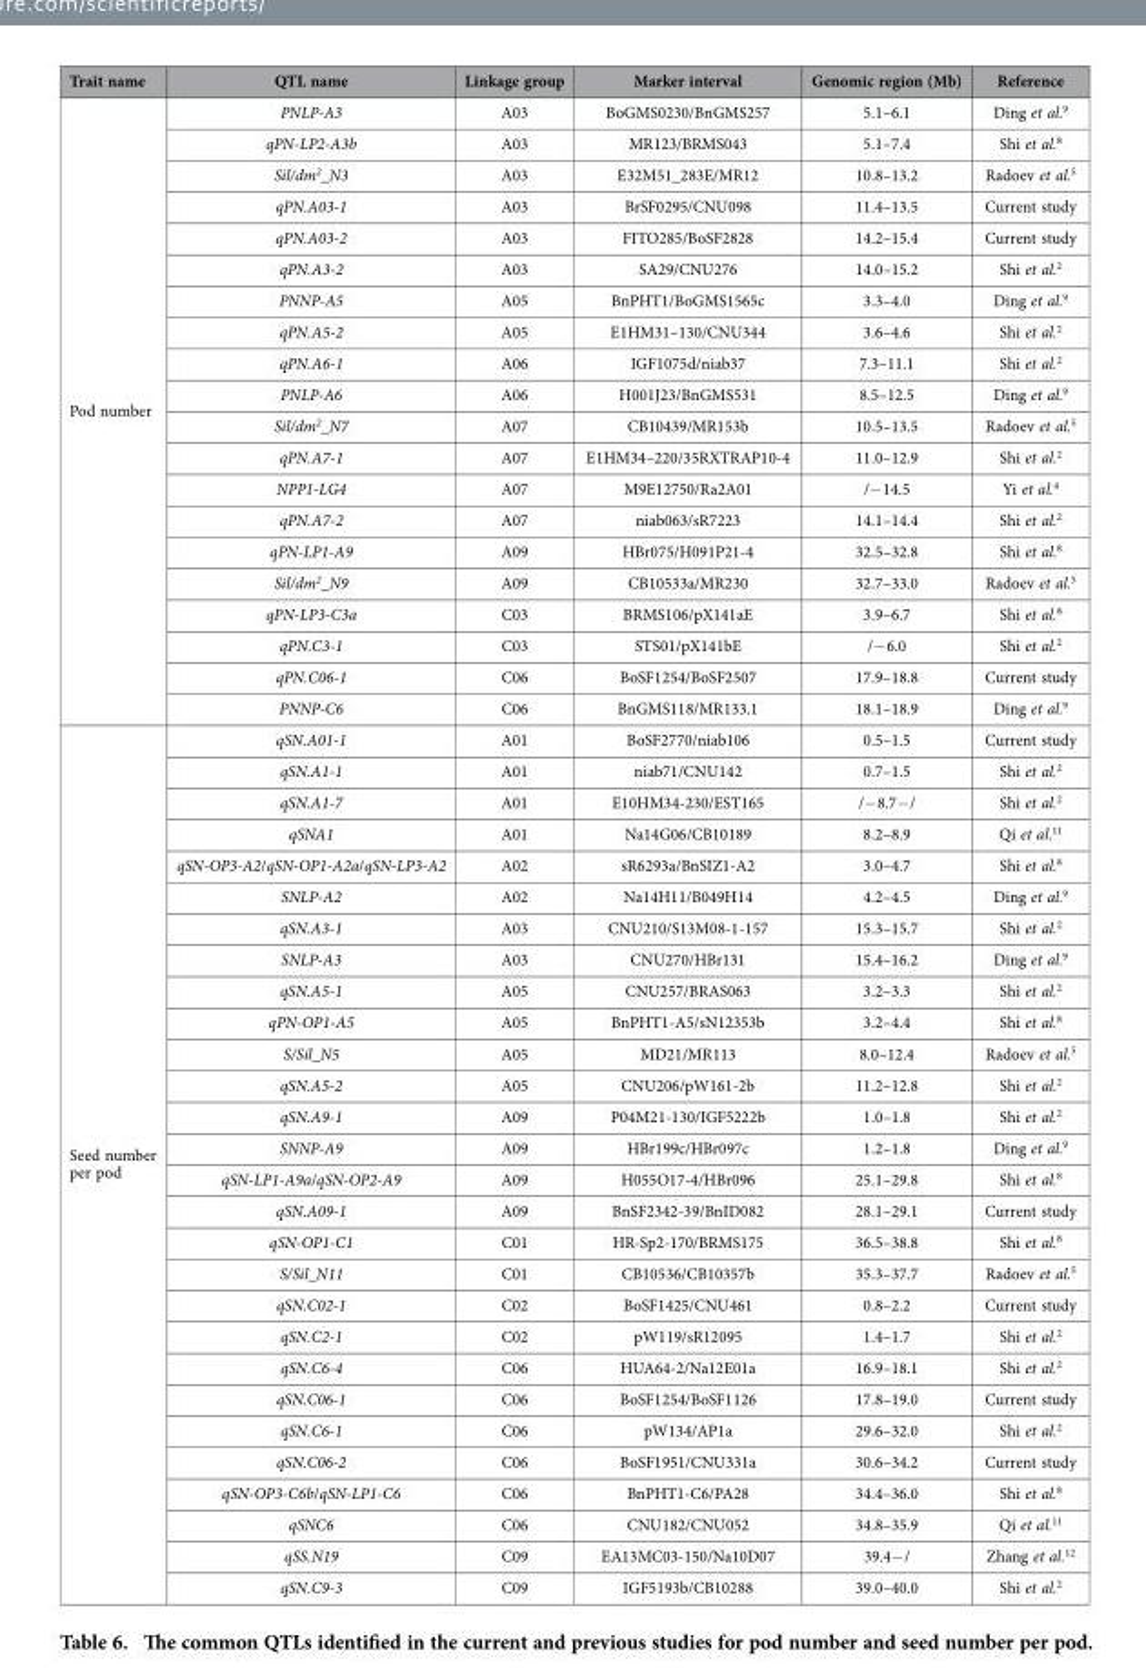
<table><thead><tr><td>Trait name</td><td>QTL name</td><td>Linkage group</td><td>Marker interval</td><td>Genomic region (Mb)</td><td>Reference</td></tr></thead><tbody><tr><td rowspan="20">Pod number</td><td>PNLP-A3</td><td>A03</td><td>BoGMS0230/BnGMS257</td><td>5.1–6.1</td><td>Ding et al.<sup>9</sup></td></tr><tr><td>qPN-LP2-A3b</td><td>A03</td><td>MR123/BRMS043</td><td>5.1–7.4</td><td>Shi et al.<sup>8</sup></td></tr><tr><td>Sil/dm<sup>2</sup>_N3</td><td>A03</td><td>E32M51_283E/MR12</td><td>10.8–13.2</td><td>Radoev et al.<sup>5</sup></td></tr><tr><td>qPN.A03-1</td><td>A03</td><td>BrSF0295/CNU098</td><td>11.4–13.5</td><td>Current study</td></tr><tr><td>qPN.A03-2</td><td>A03</td><td>FITO285/BoSF2828</td><td>14.2–15.4</td><td>Current study</td></tr><tr><td>qPN.A3-2</td><td>A03</td><td>SA29/CNU276</td><td>14.0–15.2</td><td>Shi et al.<sup>2</sup></td></tr><tr><td>PNNP-A5</td><td>A05</td><td>BnPHT1/BoGMS1565c</td><td>3.3–4.0</td><td>Ding et al.<sup>9</sup></td></tr><tr><td>qPN.A5-2</td><td>A05</td><td>E1HM31–130/CNU344</td><td>3.6–4.6</td><td>Shi et al.<sup>2</sup></td></tr><tr><td>qPN.A6-1</td><td>A06</td><td>IGF1075d/niab37</td><td>7.3–11.1</td><td>Shi et al.<sup>2</sup></td></tr><tr><td>PNLP-A6</td><td>A06</td><td>H001J23/BnGMS531</td><td>8.5–12.5</td><td>Ding et al.<sup>9</sup></td></tr><tr><td>Sil/dm<sup>2</sup>_N7</td><td>A07</td><td>CB10439/MR153b</td><td>10.5–13.5</td><td>Radoev et al.<sup>5</sup></td></tr><tr><td>qPN.A7-1</td><td>A07</td><td>E1HM34–220/35RXTRAP10-4</td><td>11.0–12.9</td><td>Shi et al.<sup>2</sup></td></tr><tr><td>NPP1-LG4</td><td>A07</td><td>M9E12750/Ra2A01</td><td>/− 14.5</td><td>Yi et al.<sup>4</sup></td></tr><tr><td>qPN.A7-2</td><td>A07</td><td>niab063/sR7223</td><td>14.1–14.4</td><td>Shi et al.<sup>2</sup></td></tr><tr><td>qPN-LP1-A9</td><td>A09</td><td>HBr075/H091P21-4</td><td>32.5–32.8</td><td>Shi et al.<sup>8</sup></td></tr><tr><td>Sil/dm<sup>2</sup>_N9</td><td>A09</td><td>CB10533a/MR230</td><td>32.7–33.0</td><td>Radoev et al.<sup>5</sup></td></tr><tr><td>qPN-LP3-C3a</td><td>C03</td><td>BRMS106/pX141aE</td><td>3.9–6.7</td><td>Shi et al.<sup>8</sup></td></tr><tr><td>qPN.C3-1</td><td>C03</td><td>STS01/pX141bE</td><td>/− 6.0</td><td>Shi et al.<sup>2</sup></td></tr><tr><td>qPN.C06-1</td><td>C06</td><td>BoSF1254/BoSF2507</td><td>17.9–18.8</td><td>Current study</td></tr><tr><td>PNNP-C6</td><td>C06</td><td>BnGMS118/MR133.1</td><td>18.1–18.9</td><td>Ding et al.<sup>9</sup></td></tr><tr><td rowspan="28">Seed number per pod</td><td>qSN.A01-1</td><td>A01</td><td>BoSF2770/niab106</td><td>0.5–1.5</td><td>Current study</td></tr><tr><td>qSN.A1-1</td><td>A01</td><td>niab71/CNU142</td><td>0.7–1.5</td><td>Shi et al.<sup>2</sup></td></tr><tr><td>qSN.A1-7</td><td>A01</td><td>E10HM34-230/EST165</td><td>/− 8.7− /</td><td>Shi et al.<sup>2</sup></td></tr><tr><td>qSNA1</td><td>A01</td><td>Na14G06/CB10189</td><td>8.2–8.9</td><td>Qi et al.<sup>11</sup></td></tr><tr><td>qSN-OP3-A2/qSN-OP1-A2a/qSN-LP3-A2</td><td>A02</td><td>sR6293a/BnSIZ1-A2</td><td>3.0–4.7</td><td>Shi et al.<sup>8</sup></td></tr><tr><td>SNLP-A2</td><td>A02</td><td>Na14H11/B049H14</td><td>4.2–4.5</td><td>Ding et al.<sup>9</sup></td></tr><tr><td>qSN.A3-1</td><td>A03</td><td>CNU210/S13M08-1-157</td><td>15.3–15.7</td><td>Shi et al.<sup>2</sup></td></tr><tr><td>SNLP-A3</td><td>A03</td><td>CNU270/HBr131</td><td>15.4–16.2</td><td>Ding et al.<sup>9</sup></td></tr><tr><td>qSN.A5-1</td><td>A05</td><td>CNU257/BRAS063</td><td>3.2–3.3</td><td>Shi et al.<sup>2</sup></td></tr><tr><td>qPN-OP1-A5</td><td>A05</td><td>BnPHT1-A5/sN12353b</td><td>3.2–4.4</td><td>Shi et al.<sup>8</sup></td></tr><tr><td>S/Sil_N5</td><td>A05</td><td>MD21/MR113</td><td>8.0–12.4</td><td>Radoev et al.<sup>5</sup></td></tr><tr><td>qSN.A5-2</td><td>A05</td><td>CNU206/pW161-2b</td><td>11.2–12.8</td><td>Shi et al.<sup>2</sup></td></tr><tr><td>qSN.A9-1</td><td>A09</td><td>P04M21-130/IGF5222b</td><td>1.0–1.8</td><td>Shi et al.<sup>2</sup></td></tr><tr><td>SNNP-A9</td><td>A09</td><td>HBr199c/HBr097c</td><td>1.2–1.8</td><td>Ding et al.<sup>9</sup></td></tr><tr><td>qSN-LP1-A9a/qSN-OP2-A9</td><td>A09</td><td>H055O17-4/HBr096</td><td>25.1–29.8</td><td>Shi et al.<sup>8</sup></td></tr><tr><td>qSN.A09-1</td><td>A09</td><td>BnSF2342-39/BnID082</td><td>28.1–29.1</td><td>Current study</td></tr><tr><td>qSN-OP1-C1</td><td>C01</td><td>HR-Sp2-170/BRMS175</td><td>36.5–38.8</td><td>Shi et al.<sup>8</sup></td></tr><tr><td>S/Sil_N11</td><td>C01</td><td>CB10536/CB10357b</td><td>35.3–37.7</td><td>Radoev et al.<sup>5</sup></td></tr><tr><td>qSN.C02-1</td><td>C02</td><td>BoSF1425/CNU461</td><td>0.8–2.2</td><td>Current study</td></tr><tr><td>qSN.C2-1</td><td>C02</td><td>pW119/sR12095</td><td>1.4–1.7</td><td>Shi et al.<sup>2</sup></td></tr><tr><td>qSN.C6-4</td><td>C06</td><td>HUA64-2/Na12E01a</td><td>16.9–18.1</td><td>Shi et al.<sup>2</sup></td></tr><tr><td>qSN.C06-1</td><td>C06</td><td>BoSF1254/BoSF1126</td><td>17.8–19.0</td><td>Current study</td></tr><tr><td>qSN.C6-1</td><td>C06</td><td>pW134/AP1a</td><td>29.6–32.0</td><td>Shi et al.<sup>2</sup></td></tr><tr><td>qSN.C06-2</td><td>C06</td><td>BoSF1951/CNU331a</td><td>30.6–34.2</td><td>Current study</td></tr><tr><td>qSN-OP3-C6b/qSN-LP1-C6</td><td>C06</td><td>BnPHT1-C6/PA28</td><td>34.4–36.0</td><td>Shi et al.<sup>8</sup></td></tr><tr><td>qSNC6</td><td>C06</td><td>CNU182/CNU052</td><td>34.8–35.9</td><td>Qi et al.<sup>11</sup></td></tr><tr><td>qSS.N19</td><td>C09</td><td>EA13MC03-150/Na10D07</td><td>39.4− /</td><td>Zhang et al.<sup>12</sup></td></tr><tr><td>qSN.C9-3</td><td>C09</td><td>IGF5193b/CB10288</td><td>39.0–40.0</td><td>Shi et al.<sup>2</sup></td></tr></tbody></table>